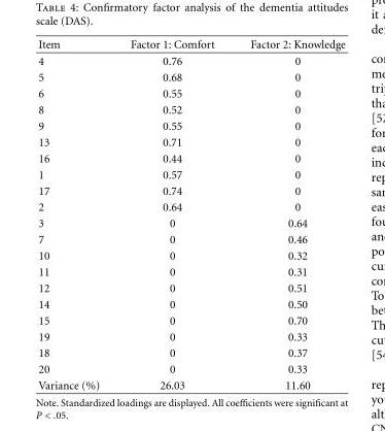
<table><thead><tr><td>Item</td><td>Factor 1: Comfort</td><td>Factor 2: Knowledge</td></tr></thead><tbody><tr><td>4</td><td>0.76</td><td>0</td></tr><tr><td>5</td><td>0.68</td><td>0</td></tr><tr><td>6</td><td>0.55</td><td>0</td></tr><tr><td>8</td><td>0.52</td><td>0</td></tr><tr><td>9</td><td>0.55</td><td>0</td></tr><tr><td>13</td><td>0.71</td><td>0</td></tr><tr><td>16</td><td>0.44</td><td>0</td></tr><tr><td>1</td><td>0.57</td><td>0</td></tr><tr><td>17</td><td>0.74</td><td>0</td></tr><tr><td>2</td><td>0.64</td><td>0</td></tr><tr><td>3</td><td>0</td><td>0.64</td></tr><tr><td>7</td><td>0</td><td>0.46</td></tr><tr><td>10</td><td>0</td><td>0.32</td></tr><tr><td>11</td><td>0</td><td>0.31</td></tr><tr><td>12</td><td>0</td><td>0.51</td></tr><tr><td>14</td><td>0</td><td>0.50</td></tr><tr><td>15</td><td>0</td><td>0.70</td></tr><tr><td>19</td><td>0</td><td>0.33</td></tr><tr><td>18</td><td>0</td><td>0.37</td></tr><tr><td>20</td><td>0</td><td>0.33</td></tr><tr><td>Variance (%)</td><td>26.03</td><td>11.60</td></tr></tbody></table>